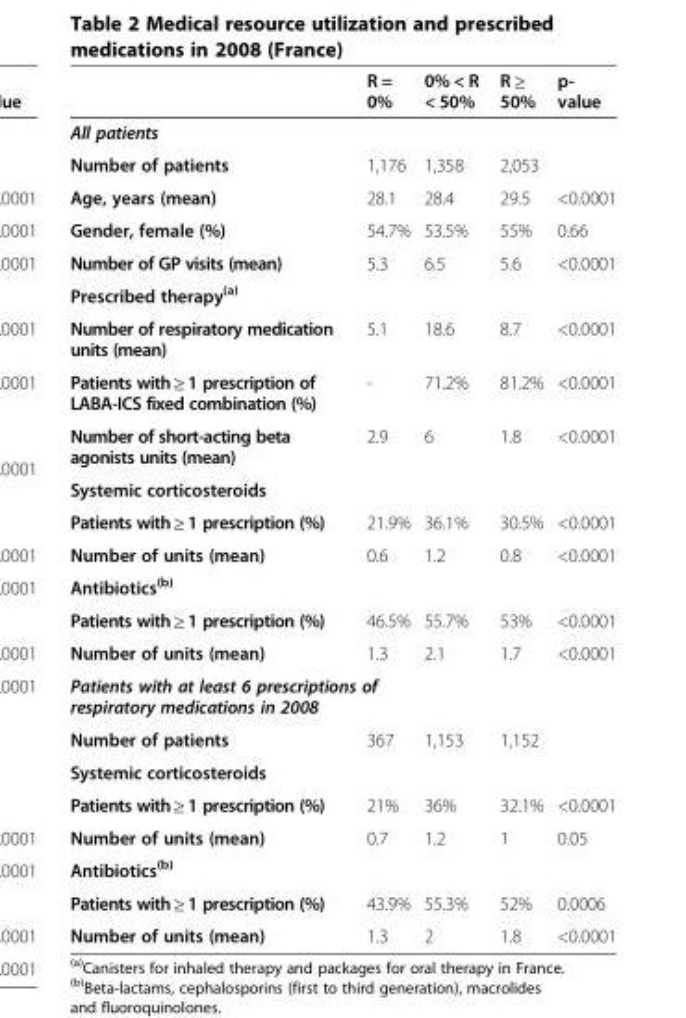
<table><thead><tr><td></td><td>R = 0%</td><td>0% &lt; R &lt; 50%</td><td>R ≥ 50%</td><td>p- value</td></tr></thead><tbody><tr><td colspan="5">All patients</td></tr><tr><td>Number of patients</td><td>1,176</td><td>1,358</td><td>2,053</td><td></td></tr><tr><td>Age, years (mean)</td><td>28.1</td><td>28.4</td><td>29.5</td><td>&lt;0.0001</td></tr><tr><td>Gender, female (%)</td><td>54.7%</td><td>53.5%</td><td>55%</td><td>0.66</td></tr><tr><td>Number of GP visits (mean)</td><td>5.3</td><td>6.5</td><td>5.6</td><td>&lt;0.0001</td></tr><tr><td colspan="5">Prescribed therapy<sup>(a)</sup></td></tr><tr><td>Number of respiratory medication units (mean)</td><td>5.1</td><td>18.6</td><td>8.7</td><td>&lt;0.0001</td></tr><tr><td>Patients with ≥ 1 prescription of LABA-ICS fixed combination (%)</td><td>-</td><td>71.2%</td><td>81.2%</td><td>&lt;0.0001</td></tr><tr><td>Number of short-acting beta agonists units (mean)</td><td>2.9</td><td>6</td><td>1.8</td><td>&lt;0.0001</td></tr><tr><td colspan="5">Systemic corticosteroids</td></tr><tr><td>Patients with ≥ 1 prescription (%)</td><td>21.9%</td><td>36.1%</td><td>30.5%</td><td>&lt;0.0001</td></tr><tr><td>Number of units (mean)</td><td>0.6</td><td>1.2</td><td>0.8</td><td>&lt;0.0001</td></tr><tr><td colspan="5">Antibiotics<sup>(b)</sup></td></tr><tr><td>Patients with ≥ 1 prescription (%)</td><td>46.5%</td><td>55.7%</td><td>53%</td><td>&lt;0.0001</td></tr><tr><td>Number of units (mean)</td><td>1.3</td><td>2.1</td><td>1.7</td><td>&lt;0.0001</td></tr><tr><td colspan="5">Patients with at least 6 prescriptions of respiratory medications in 2008</td></tr><tr><td>Number of patients</td><td>367</td><td>1,153</td><td>1,152</td><td></td></tr><tr><td colspan="5">Systemic corticosteroids</td></tr><tr><td>Patients with ≥ 1 prescription (%)</td><td>21%</td><td>36%</td><td>32.1%</td><td>&lt;0.0001</td></tr><tr><td>Number of units (mean)</td><td>0.7</td><td>1.2</td><td>1</td><td>0.05</td></tr><tr><td colspan="5">Antibiotics<sup>(b)</sup></td></tr><tr><td>Patients with ≥ 1 prescription (%)</td><td>43.9%</td><td>55.3%</td><td>52%</td><td>0.0006</td></tr><tr><td>Number of units (mean)</td><td>1.3</td><td>2</td><td>1.8</td><td>&lt;0.0001</td></tr></tbody></table>